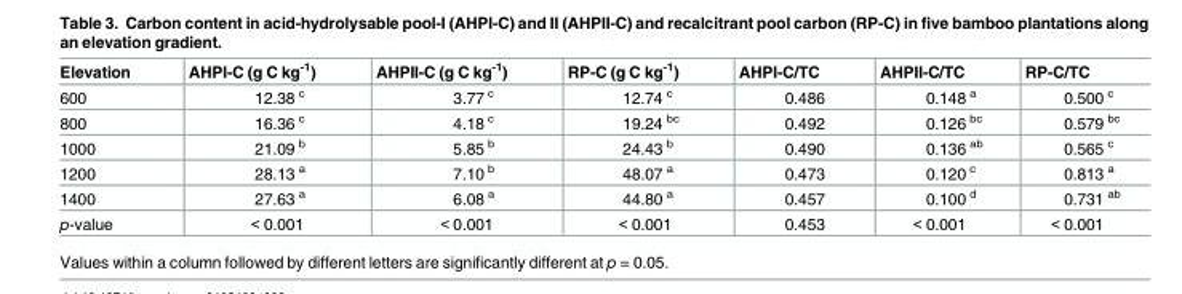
<table><thead><tr><td>Elevation</td><td>AHPI-C (g C kg<sup>-1</sup>)</td><td>AHPII-C (g C kg<sup>-1</sup>)</td><td>RP-C (g C kg<sup>-1</sup>)</td><td>AHPI-C/TC</td><td>AHPII-C/TC</td><td>RP-C/TC</td></tr></thead><tbody><tr><td>600</td><td>12.38 <sup>c</sup></td><td>3.77 <sup>c</sup></td><td>12.74 <sup>c</sup></td><td>0.486</td><td>0.148 <sup>a</sup></td><td>0.500 <sup>c</sup></td></tr><tr><td>800</td><td>16.36 <sup>c</sup></td><td>4.18 <sup>c</sup></td><td>19.24 <sup>bc</sup></td><td>0.492</td><td>0.126 <sup>bc</sup></td><td>0.579 <sup>bc</sup></td></tr><tr><td>1000</td><td>21.09 <sup>b</sup></td><td>5.85 <sup>b</sup></td><td>24.43 <sup>b</sup></td><td>0.490</td><td>0.136 <sup>ab</sup></td><td>0.565 <sup>c</sup></td></tr><tr><td>1200</td><td>28.13 <sup>a</sup></td><td>7.10 <sup>b</sup></td><td>48.07 <sup>a</sup></td><td>0.473</td><td>0.120 <sup>c</sup></td><td>0.813 <sup>a</sup></td></tr><tr><td>1400</td><td>27.63 <sup>a</sup></td><td>6.08 <sup>a</sup></td><td>44.80 <sup>a</sup></td><td>0.457</td><td>0.100 <sup>d</sup></td><td>0.731 <sup>ab</sup></td></tr><tr><td>p-value</td><td>&lt; 0.001</td><td>&lt; 0.001</td><td>&lt; 0.001</td><td>0.453</td><td>&lt; 0.001</td><td>&lt; 0.001</td></tr></tbody></table>